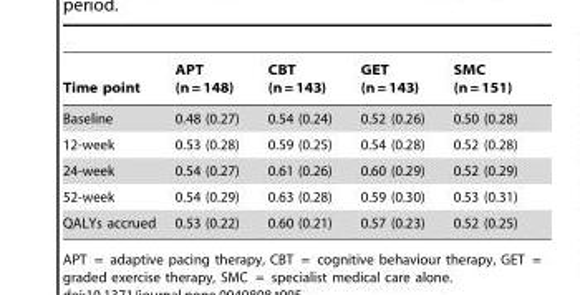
<table><thead><tr><td>Time point</td><td>APT (n = 148)</td><td>CBT (n = 143)</td><td>GET (n = 143)</td><td>SMC (n = 151)</td></tr></thead><tbody><tr><td>Baseline</td><td>0.48 (0.27)</td><td>0.54 (0.24)</td><td>0.52 (0.26)</td><td>0.50 (0.28)</td></tr><tr><td>12-week</td><td>0.53 (0.28)</td><td>0.59 (0.25)</td><td>0.54 (0.28)</td><td>0.52 (0.28)</td></tr><tr><td>24-week</td><td>0.54 (0.27)</td><td>0.61 (0.26)</td><td>0.60 (0.29)</td><td>0.52 (0.29)</td></tr><tr><td>52-week</td><td>0.54 (0.29)</td><td>0.63 (0.28)</td><td>0.59 (0.30)</td><td>0.53 (0.31)</td></tr><tr><td>QALYs accrued</td><td>0.53 (0.22)</td><td>0.60 (0.21)</td><td>0.57 (0.23)</td><td>0.52 (0.25)</td></tr></tbody></table>